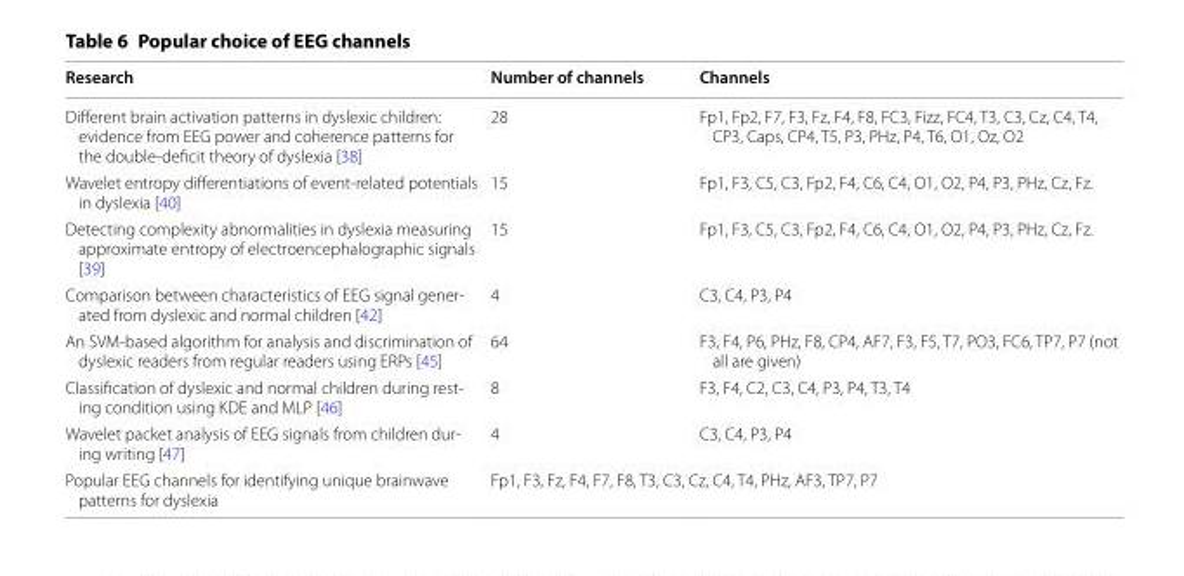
<table><thead><tr><td>Research</td><td>Number of channels</td><td>Channels</td></tr></thead><tbody><tr><td>Different brain activation patterns in dyslexic children: evidence from EEG power and coherence patterns for the double-deficit theory of dyslexia [38]</td><td>28</td><td>Fp1, Fp2, F7, F3, Fz, F4, F8, FC3, Fizz, FC4, T3, C3, Cz, C4, T4, CP3, Caps, CP4, T5, P3, PHz, P4, T6, O1, Oz, O2</td></tr><tr><td>Wavelet entropy differentiations of event-related potentials in dyslexia [40]</td><td>15</td><td>Fp1, F3, C5, C3, Fp2, F4, C6, C4, O1, O2, P4, P3, PHz, Cz, Fz.</td></tr><tr><td>Detecting complexity abnormalities in dyslexia measuring approximate entropy of electroencephalographic signals [39]</td><td>15</td><td>Fp1, F3, C5, C3, Fp2, F4, C6, C4, O1, O2, P4, P3, PHz, Cz, Fz.</td></tr><tr><td>Comparison between characteristics of EEG signal gener- ated from dyslexic and normal children [42]</td><td>4</td><td>C3, C4, P3, P4</td></tr><tr><td>An SVM-based algorithm for analysis and discrimination of dyslexic readers from regular readers using ERPs [45]</td><td>64</td><td>F3, F4, P6, PHz, F8, CP4, AF7, F3, F5, T7, PO3, FC6, TP7, P7 (not all are given)</td></tr><tr><td>Classification of dyslexic and normal children during rest- ing condition using KDE and MLP [46]</td><td>8</td><td>F3, F4, C2, C3, C4, P3, P4, T3, T4</td></tr><tr><td>Wavelet packet analysis of EEG signals from children dur- ing writing [47]</td><td>4</td><td>C3, C4, P3, P4</td></tr><tr><td>Popular EEG channels for identifying unique brainwave patterns for dyslexia</td><td colspan="2">Fp1, F3, Fz, F4, F7, F8, T3, C3, Cz, C4, T4, PHz, AF3, TP7, P7</td></tr></tbody></table>